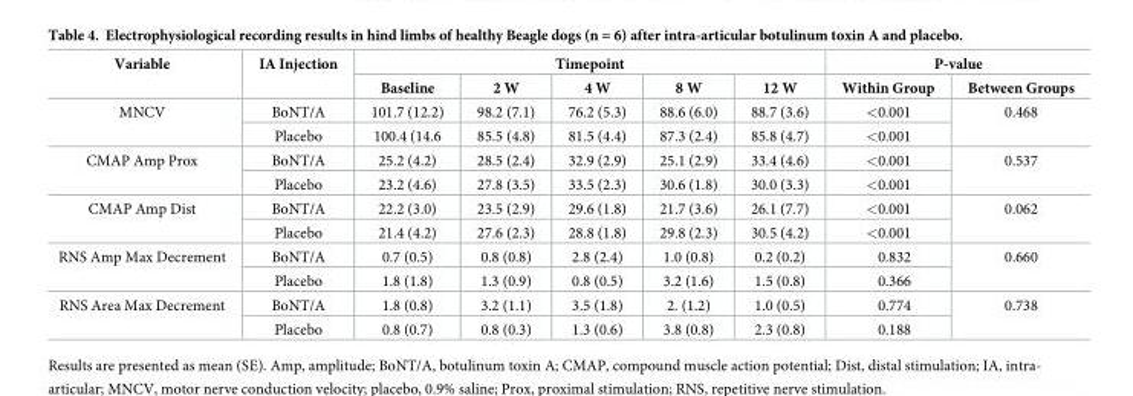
<table><thead><tr><td rowspan="2">Variable</td><td rowspan="2">IA Injection</td><td colspan="5">Timepoint</td><td colspan="2">P-value</td></tr><tr><td>Baseline</td><td>2 W</td><td>4 W</td><td>8 W</td><td>12 W</td><td>Within Group</td><td>Between Groups</td></tr></thead><tbody><tr><td rowspan="2">MNCV</td><td>BoNT/A</td><td>101.7 (12.2)</td><td>98.2 (7.1)</td><td>76.2 (5.3)</td><td>88.6 (6.0)</td><td>88.7 (3.6)</td><td>&lt;0.001</td><td rowspan="2">0.468</td></tr><tr><td>Placebo</td><td>100.4 (14.6</td><td>85.5 (4.8)</td><td>81.5 (4.4)</td><td>87.3 (2.4)</td><td>85.8 (4.7)</td><td>&lt;0.001</td></tr><tr><td rowspan="2">CMAP Amp Prox</td><td>BoNT/A</td><td>25.2 (4.2)</td><td>28.5 (2.4)</td><td>32.9 (2.9)</td><td>25.1 (2.9)</td><td>33.4 (4.6)</td><td>&lt;0.001</td><td rowspan="2">0.537</td></tr><tr><td>Placebo</td><td>23.2 (4.6)</td><td>27.8 (3.5)</td><td>33.5 (2.3)</td><td>30.6 (1.8)</td><td>30.0 (3.3)</td><td>&lt;0.001</td></tr><tr><td rowspan="2">CMAP Amp Dist</td><td>BoNT/A</td><td>22.2 (3.0)</td><td>23.5 (2.9)</td><td>29.6 (1.8)</td><td>21.7 (3.6)</td><td>26.1 (7.7)</td><td>&lt;0.001</td><td rowspan="2">0.062</td></tr><tr><td>Placebo</td><td>21.4 (4.2)</td><td>27.6 (2.3)</td><td>28.8 (1.8)</td><td>29.8 (2.3)</td><td>30.5 (4.2)</td><td>&lt;0.001</td></tr><tr><td rowspan="2">RNS Amp Max Decrement</td><td>BoNT/A</td><td>0.7 (0.5)</td><td>0.8 (0.8)</td><td>2.8 (2.4)</td><td>1.0 (0.8)</td><td>0.2 (0.2)</td><td>0.832</td><td rowspan="2">0.660</td></tr><tr><td>Placebo</td><td>1.8 (1.8)</td><td>1.3 (0.9)</td><td>0.8 (0.5)</td><td>3.2 (1.6)</td><td>1.5 (0.8)</td><td>0.366</td></tr><tr><td rowspan="2">RNS Area Max Decrement</td><td>BoNT/A</td><td>1.8 (0.8)</td><td>3.2 (1.1)</td><td>3.5 (1.8)</td><td>2. (1.2)</td><td>1.0 (0.5)</td><td>0.774</td><td rowspan="2">0.738</td></tr><tr><td>Placebo</td><td>0.8 (0.7)</td><td>0.8 (0.3)</td><td>1.3 (0.6)</td><td>3.8 (0.8)</td><td>2.3 (0.8)</td><td>0.188</td></tr></tbody></table>